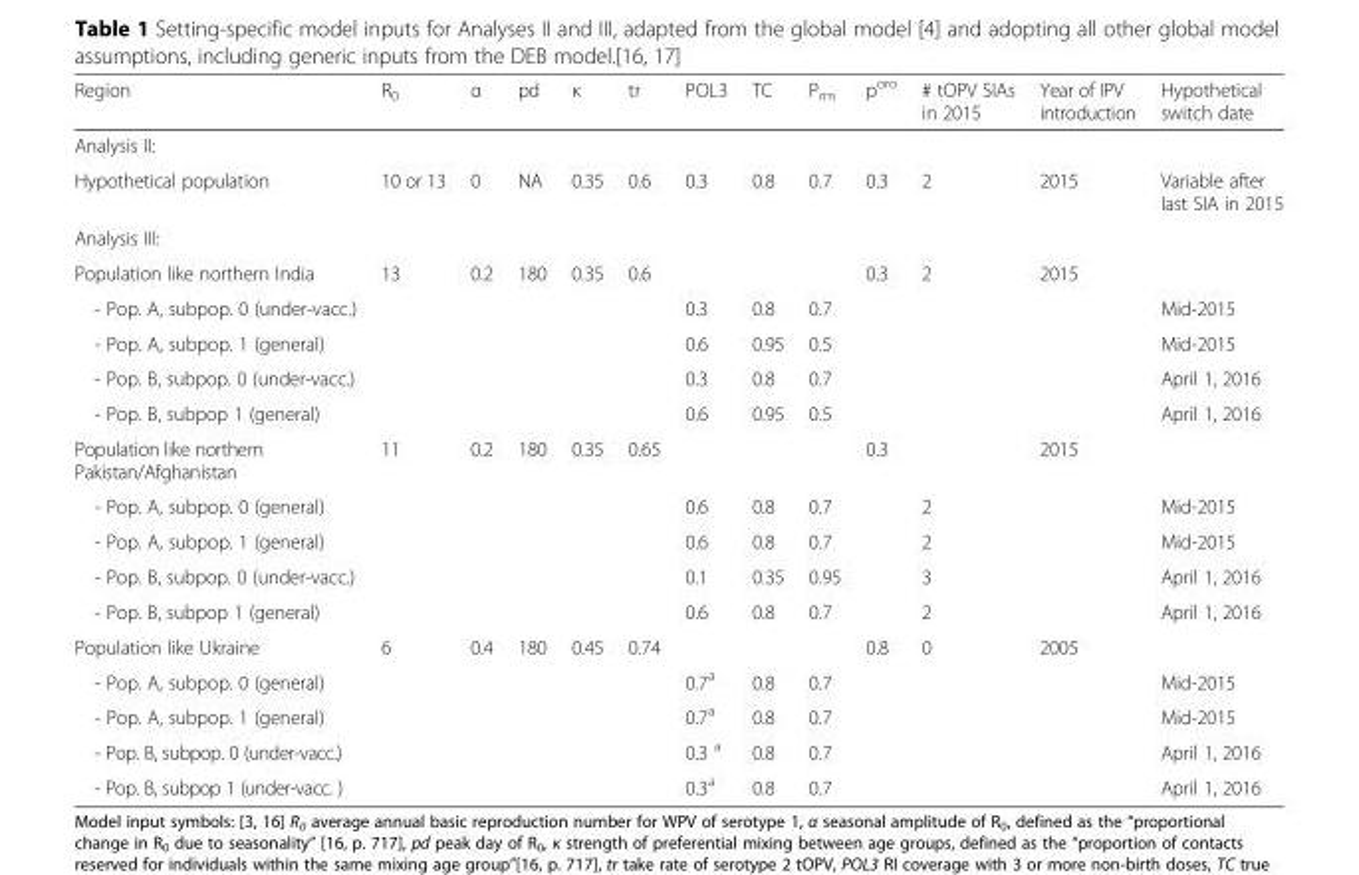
<table><thead><tr><td>Region</td><td>R<sub>0</sub></td><td>α</td><td>pd</td><td>κ</td><td>tr</td><td>POL3</td><td>TC</td><td>P<sub>rm</sub></td><td>p<sup>oro</sup></td><td># tOPV SIAs in 2015</td><td>Year of IPV introduction</td><td>Hypothetical switch date</td></tr></thead><tbody><tr><td colspan="13">Analysis II:</td></tr><tr><td>Hypothetical population</td><td>10 or 13</td><td>0</td><td>NA</td><td>0.35</td><td>0.6</td><td>0.3</td><td>0.8</td><td>0.7</td><td>0.3</td><td>2</td><td>2015</td><td>Variable after last SIA in 2015</td></tr><tr><td colspan="13">Analysis III:</td></tr><tr><td>Population like northern India</td><td>13</td><td>0.2</td><td>180</td><td>0.35</td><td>0.6</td><td></td><td></td><td></td><td>0.3</td><td>2</td><td>2015</td><td></td></tr><tr><td>- Pop. A, subpop. 0 (under-vacc.)</td><td></td><td></td><td></td><td></td><td></td><td>0.3</td><td>0.8</td><td>0.7</td><td></td><td></td><td></td><td>Mid-2015</td></tr><tr><td>- Pop. A, subpop. 1 (general)</td><td></td><td></td><td></td><td></td><td></td><td>0.6</td><td>0.95</td><td>0.5</td><td></td><td></td><td></td><td>Mid-2015</td></tr><tr><td>- Pop. B, subpop. 0 (under-vacc.)</td><td></td><td></td><td></td><td></td><td></td><td>0.3</td><td>0.8</td><td>0.7</td><td></td><td></td><td></td><td>April 1, 2016</td></tr><tr><td>- Pop. B, subpop 1 (general)</td><td></td><td></td><td></td><td></td><td></td><td>0.6</td><td>0.95</td><td>0.5</td><td></td><td></td><td></td><td>April 1, 2016</td></tr><tr><td>Population like northern Pakistan/Afghanistan</td><td>11</td><td>0.2</td><td>180</td><td>0.35</td><td>0.65</td><td></td><td></td><td></td><td>0.3</td><td></td><td>2015</td><td></td></tr><tr><td>- Pop. A, subpop. 0 (general)</td><td></td><td></td><td></td><td></td><td></td><td>0.6</td><td>0.8</td><td>0.7</td><td></td><td>2</td><td></td><td>Mid-2015</td></tr><tr><td>- Pop. A, subpop. 1 (general)</td><td></td><td></td><td></td><td></td><td></td><td>0.6</td><td>0.8</td><td>0.7</td><td></td><td>2</td><td></td><td>Mid-2015</td></tr><tr><td>- Pop. B, subpop. 0 (under-vacc.)</td><td></td><td></td><td></td><td></td><td></td><td>0.1</td><td>0.35</td><td>0.95</td><td></td><td>3</td><td></td><td>April 1, 2016</td></tr><tr><td>- Pop. B, subpop 1 (general)</td><td></td><td></td><td></td><td></td><td></td><td>0.6</td><td>0.8</td><td>0.7</td><td></td><td>2</td><td></td><td>April 1, 2016</td></tr><tr><td>Population like Ukraine</td><td>6</td><td>0.4</td><td>180</td><td>0.45</td><td>0.74</td><td></td><td></td><td></td><td>0.8</td><td>0</td><td>2005</td><td></td></tr><tr><td>- Pop. A, subpop. 0 (general)</td><td></td><td></td><td></td><td></td><td></td><td>0.7<sup>a</sup></td><td>0.8</td><td>0.7</td><td></td><td></td><td></td><td>Mid-2015</td></tr><tr><td>- Pop. A, subpop. 1 (general)</td><td></td><td></td><td></td><td></td><td></td><td>0.7<sup>a</sup></td><td>0.8</td><td>0.7</td><td></td><td></td><td></td><td>Mid-2015</td></tr><tr><td>- Pop. B, subpop. 0 (under-vacc.)</td><td></td><td></td><td></td><td></td><td></td><td>0.3 <sup>a</sup></td><td>0.8</td><td>0.7</td><td></td><td></td><td></td><td>April 1, 2016</td></tr><tr><td>- Pop. B, subpop 1 (under-vacc. )</td><td></td><td></td><td></td><td></td><td></td><td>0.3<sup>a</sup></td><td>0.8</td><td>0.7</td><td></td><td></td><td></td><td>April 1, 2016</td></tr></tbody></table>